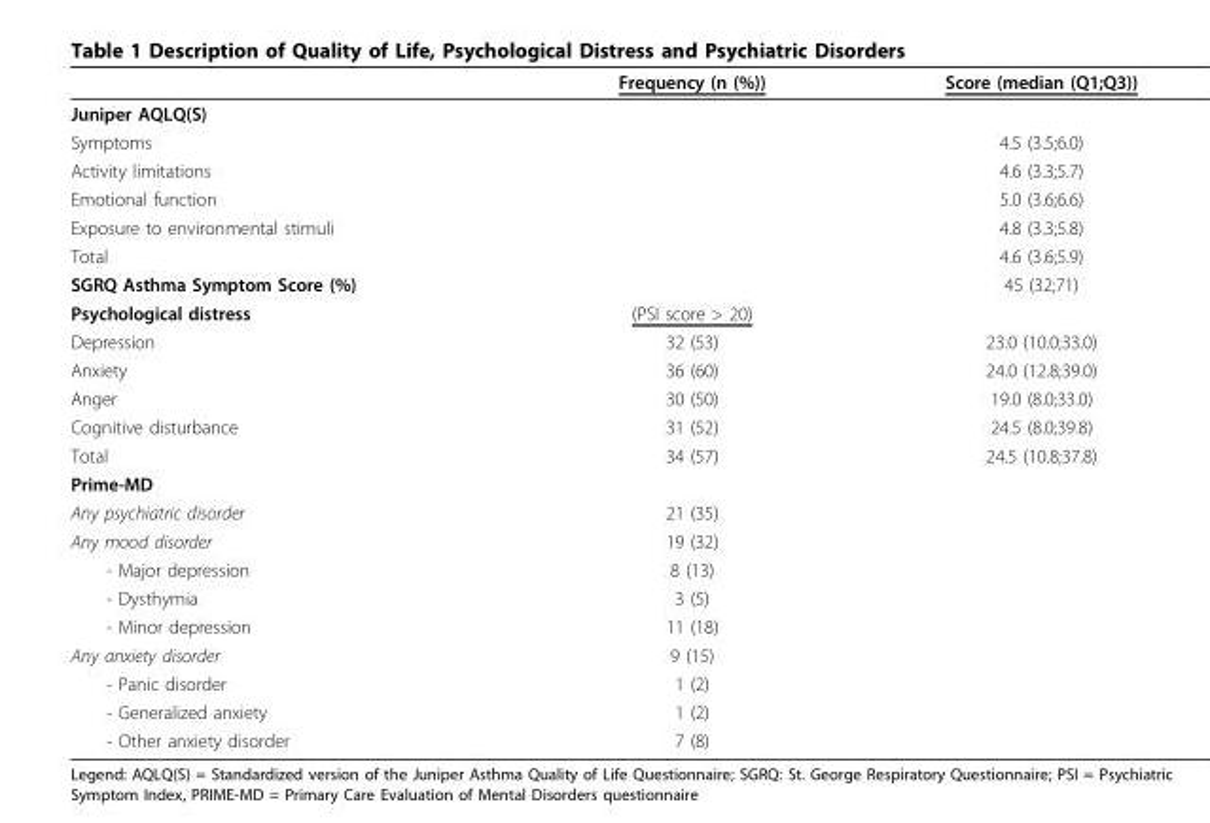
<table><thead><tr><td></td><td>Frequency (n (%))</td><td>Score (median (Q1;Q3))</td></tr></thead><tbody><tr><td colspan="3">Juniper AQLQ(S)</td></tr><tr><td>Symptoms</td><td></td><td>4.5 (3.5;6.0)</td></tr><tr><td>Activity limitations</td><td></td><td>4.6 (3.3;5.7)</td></tr><tr><td>Emotional function</td><td></td><td>5.0 (3.6;6.6)</td></tr><tr><td>Exposure to environmental stimuli</td><td></td><td>4.8 (3.3;5.8)</td></tr><tr><td>Total</td><td></td><td>4.6 (3.6;5.9)</td></tr><tr><td>SGRQ Asthma Symptom Score (%)</td><td></td><td>45 (32;71)</td></tr><tr><td>Psychological distress</td><td>(PSI score &gt; 20)</td><td></td></tr><tr><td>Depression</td><td>32 (53)</td><td>23.0 (10.0;33.0)</td></tr><tr><td>Anxiety</td><td>36 (60)</td><td>24.0 (12.8;39.0)</td></tr><tr><td>Anger</td><td>30 (50)</td><td>19.0 (8.0;33.0)</td></tr><tr><td>Cognitive disturbance</td><td>31 (52)</td><td>24.5 (8.0;39.8)</td></tr><tr><td>Total</td><td>34 (57)</td><td>24.5 (10.8;37.8)</td></tr><tr><td colspan="3">Prime-MD</td></tr><tr><td>Any psychiatric disorder</td><td>21 (35)</td><td></td></tr><tr><td>Any mood disorder</td><td>19 (32)</td><td></td></tr><tr><td>- Major depression</td><td>8 (13)</td><td></td></tr><tr><td>- Dysthymia</td><td>3 (5)</td><td></td></tr><tr><td>- Minor depression</td><td>11 (18)</td><td></td></tr><tr><td>Any anxiety disorder</td><td>9 (15)</td><td></td></tr><tr><td>- Panic disorder</td><td>1 (2)</td><td></td></tr><tr><td>- Generalized anxiety</td><td>1 (2)</td><td></td></tr><tr><td>- Other anxiety disorder</td><td>7 (8)</td><td></td></tr></tbody></table>